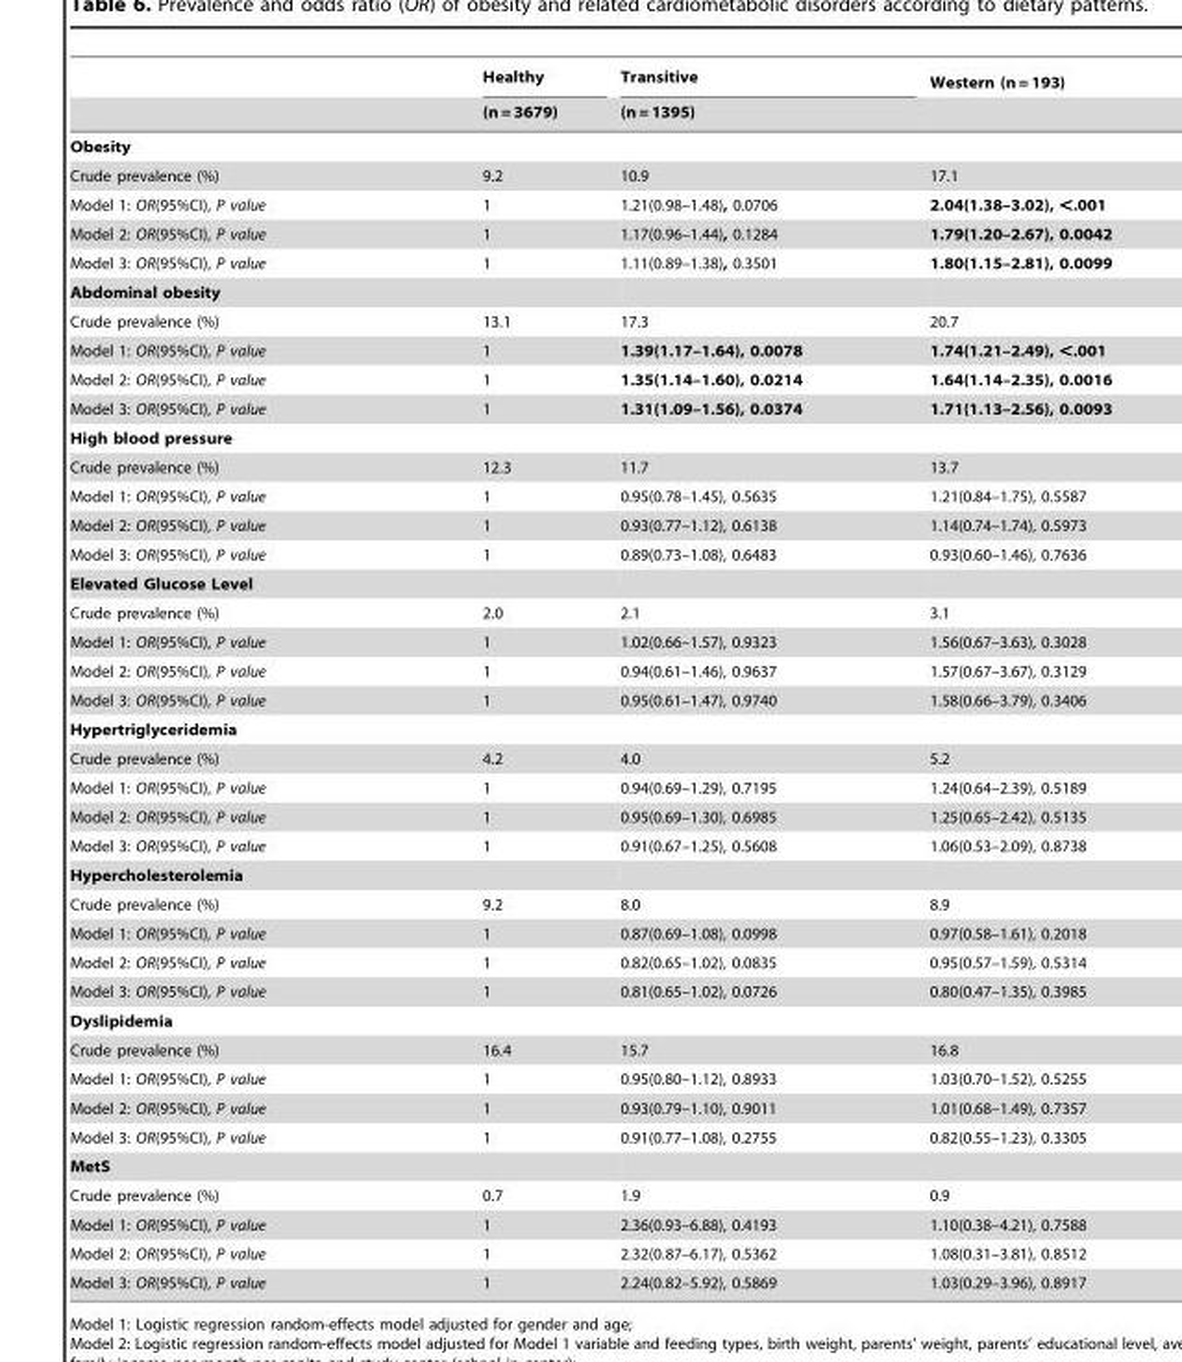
<table><thead><tr><td rowspan="2"></td><td rowspan="2">Healthy (n = 3679)</td><td rowspan="2">Transitive (n = 1395)</td><td rowspan="2">Western (n = 193)</td></tr><tr></tr></thead><tbody><tr><td colspan="4">Obesity</td></tr><tr><td>Crude prevalence (%)</td><td>9.2</td><td>10.9</td><td>17.1</td></tr><tr><td>Model 1: OR(95%CI), P value</td><td>1</td><td>1.21(0.98–1.48), 0.0706</td><td>2.04(1.38–3.02), &lt;.001</td></tr><tr><td>Model 2: OR(95%CI), P value</td><td>1</td><td>1.17(0.96–1.44), 0.1284</td><td>1.79(1.20–2.67), 0.0042</td></tr><tr><td>Model 3: OR(95%CI), P value</td><td>1</td><td>1.11(0.89–1.38), 0.3501</td><td>1.80(1.15–2.81), 0.0099</td></tr><tr><td colspan="4">Abdominal obesity</td></tr><tr><td>Crude prevalence (%)</td><td>13.1</td><td>17.3</td><td>20.7</td></tr><tr><td>Model 1: OR(95%CI), P value</td><td>1</td><td>1.39(1.17–1.64), 0.0078</td><td>1.74(1.21–2.49), &lt;.001</td></tr><tr><td>Model 2: OR(95%CI), P value</td><td>1</td><td>1.35(1.14–1.60), 0.0214</td><td>1.64(1.14–2.35), 0.0016</td></tr><tr><td>Model 3: OR(95%CI), P value</td><td>1</td><td>1.31(1.09–1.56), 0.0374</td><td>1.71(1.13–2.56), 0.0093</td></tr><tr><td colspan="4">High blood pressure</td></tr><tr><td>Crude prevalence (%)</td><td>12.3</td><td>11.7</td><td>13.7</td></tr><tr><td>Model 1: OR(95%CI), P value</td><td>1</td><td>0.95(0.78–1.45), 0.5635</td><td>1.21(0.84–1.75), 0.5587</td></tr><tr><td>Model 2: OR(95%CI), P value</td><td>1</td><td>0.93(0.77–1.12), 0.6138</td><td>1.14(0.74–1.74), 0.5973</td></tr><tr><td>Model 3: OR(95%CI), P value</td><td>1</td><td>0.89(0.73–1.08), 0.6483</td><td>0.93(0.60–1.46), 0.7636</td></tr><tr><td colspan="4">Elevated Glucose Level</td></tr><tr><td>Crude prevalence (%)</td><td>2.0</td><td>2.1</td><td>3.1</td></tr><tr><td>Model 1: OR(95%CI), P value</td><td>1</td><td>1.02(0.66–1.57), 0.9323</td><td>1.56(0.67–3.63), 0.3028</td></tr><tr><td>Model 2: OR(95%CI), P value</td><td>1</td><td>0.94(0.61–1.46), 0.9637</td><td>1.57(0.67–3.67), 0.3129</td></tr><tr><td>Model 3: OR(95%CI), P value</td><td>1</td><td>0.95(0.61–1.47), 0.9740</td><td>1.58(0.66–3.79), 0.3406</td></tr><tr><td colspan="4">Hypertriglyceridemia</td></tr><tr><td>Crude prevalence (%)</td><td>4.2</td><td>4.0</td><td>5.2</td></tr><tr><td>Model 1: OR(95%CI), P value</td><td>1</td><td>0.94(0.69–1.29), 0.7195</td><td>1.24(0.64–2.39), 0.5189</td></tr><tr><td>Model 2: OR(95%CI), P value</td><td>1</td><td>0.95(0.69–1.30), 0.6985</td><td>1.25(0.65–2.42), 0.5135</td></tr><tr><td>Model 3: OR(95%CI), P value</td><td>1</td><td>0.91(0.67–1.25), 0.5608</td><td>1.06(0.53–2.09), 0.8738</td></tr><tr><td colspan="4">Hypercholesterolemia</td></tr><tr><td>Crude prevalence (%)</td><td>9.2</td><td>8.0</td><td>8.9</td></tr><tr><td>Model 1: OR(95%CI), P value</td><td>1</td><td>0.87(0.69–1.08), 0.0998</td><td>0.97(0.58–1.61), 0.2018</td></tr><tr><td>Model 2: OR(95%CI), P value</td><td>1</td><td>0.82(0.65–1.02), 0.0835</td><td>0.95(0.57–1.59), 0.5314</td></tr><tr><td>Model 3: OR(95%CI), P value</td><td>1</td><td>0.81(0.65–1.02), 0.0726</td><td>0.80(0.47–1.35), 0.3985</td></tr><tr><td colspan="4">Dyslipidemia</td></tr><tr><td>Crude prevalence (%)</td><td>16.4</td><td>15.7</td><td>16.8</td></tr><tr><td>Model 1: OR(95%CI), P value</td><td>1</td><td>0.95(0.80–1.12), 0.8933</td><td>1.03(0.70–1.52), 0.5255</td></tr><tr><td>Model 2: OR(95%CI), P value</td><td>1</td><td>0.93(0.79–1.10), 0.9011</td><td>1.01(0.68–1.49), 0.7357</td></tr><tr><td>Model 3: OR(95%CI), P value</td><td>1</td><td>0.91(0.77–1.08), 0.2755</td><td>0.82(0.55–1.23), 0.3305</td></tr><tr><td colspan="4">MetS</td></tr><tr><td>Crude prevalence (%)</td><td>0.7</td><td>1.9</td><td>0.9</td></tr><tr><td>Model 1: OR(95%CI), P value</td><td>1</td><td>2.36(0.93–6.88), 0.4193</td><td>1.10(0.38–4.21), 0.7588</td></tr><tr><td>Model 2: OR(95%CI), P value</td><td>1</td><td>2.32(0.87–6.17), 0.5362</td><td>1.08(0.31–3.81), 0.8512</td></tr><tr><td>Model 3: OR(95%CI), P value</td><td>1</td><td>2.24(0.82–5.92), 0.5869</td><td>1.03(0.29–3.96), 0.8917</td></tr></tbody></table>